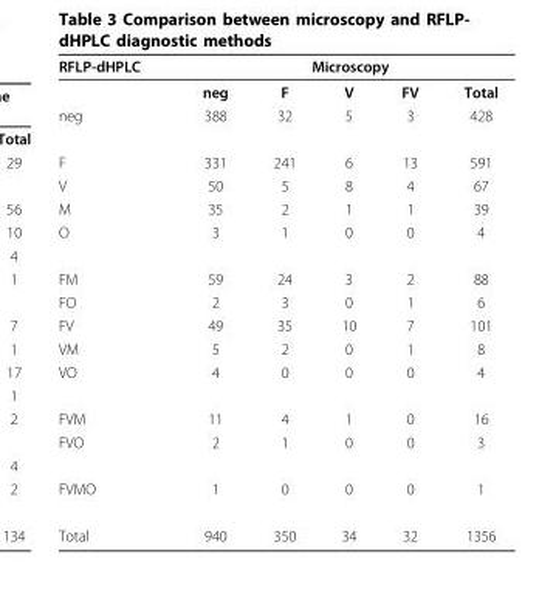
<table><tbody><tr><td rowspan="2">RFLP-dHPLC</td><td colspan="5">Microscopy</td></tr><tr><td>neg</td><td>F</td><td>V</td><td>FV</td><td>Total</td></tr><tr><td>neg</td><td>388</td><td>32</td><td>5</td><td>3</td><td>428</td></tr><tr><td>F</td><td>331</td><td>241</td><td>6</td><td>13</td><td>591</td></tr><tr><td>V</td><td>50</td><td>5</td><td>8</td><td>4</td><td>67</td></tr><tr><td>M</td><td>35</td><td>2</td><td>1</td><td>1</td><td>39</td></tr><tr><td>O</td><td>3</td><td>1</td><td>0</td><td>0</td><td>4</td></tr><tr><td>FM</td><td>59</td><td>24</td><td>3</td><td>2</td><td>88</td></tr><tr><td>FO</td><td>2</td><td>3</td><td>0</td><td>1</td><td>6</td></tr><tr><td>FV</td><td>49</td><td>35</td><td>10</td><td>7</td><td>101</td></tr><tr><td>VM</td><td>5</td><td>2</td><td>0</td><td>1</td><td>8</td></tr><tr><td>VO</td><td>4</td><td>0</td><td>0</td><td>0</td><td>4</td></tr><tr><td>FVM</td><td>11</td><td>4</td><td>1</td><td>0</td><td>16</td></tr><tr><td>FVO</td><td>2</td><td>1</td><td>0</td><td>0</td><td>3</td></tr><tr><td>FVMO</td><td>1</td><td>0</td><td>0</td><td>0</td><td>1</td></tr><tr><td>Total</td><td>940</td><td>350</td><td>34</td><td>32</td><td>1356</td></tr></tbody></table>